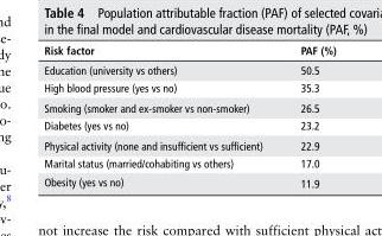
<table><thead><tr><td>risk factor</td><td>PAF (%)</td></tr></thead><tbody><tr><td>Education (university vs others)</td><td>50.5</td></tr><tr><td>High blood pressure (yes vs no)</td><td>35.3</td></tr><tr><td>Smoking (smoker and ex-smoker vs non-smoker)</td><td>26.5</td></tr><tr><td>Diabetes (yes vs no)</td><td>23.2</td></tr><tr><td>Physical activity (none and insufficient vs sufficient)</td><td>22.9</td></tr><tr><td>Marital status (married/cohabiting vs others)</td><td>17.0</td></tr><tr><td>Obesity (yes vs no)</td><td>11.9</td></tr></tbody></table>